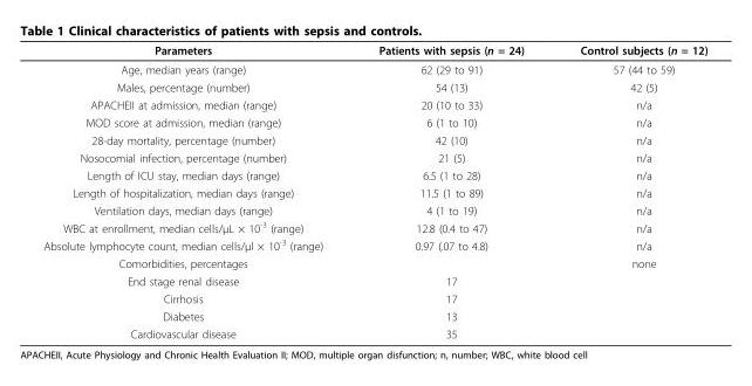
<table><thead><tr><td>Parameters</td><td>Patients with sepsis (n = 24)</td><td>Control subjects (n = 12)</td></tr></thead><tbody><tr><td>Age, median years (range)</td><td>62 (29 to 91)</td><td>57 (44 to 59)</td></tr><tr><td>Males, percentage (number)</td><td>54 (13)</td><td>42 (5)</td></tr><tr><td>APACHEII at admission, median (range)</td><td>20 (10 to 33)</td><td>n/a</td></tr><tr><td>MOD score at admission, median (range)</td><td>6 (1 to 10)</td><td>n/a</td></tr><tr><td>28-day mortality, percentage (number)</td><td>42 (10)</td><td>n/a</td></tr><tr><td>Nosocomial infection, percentage (number)</td><td>21 (5)</td><td>n/a</td></tr><tr><td>Length of ICU stay, median days (range)</td><td>6.5 (1 to 28)</td><td>n/a</td></tr><tr><td>Length of hospitalization, median days (range)</td><td>11.5 (1 to 89)</td><td>n/a</td></tr><tr><td>Ventilation days, median days (range)</td><td>4 (1 to 19)</td><td>n/a</td></tr><tr><td>WBC at enrollment, median cells/μL × 10<sup>-3</sup> (range)</td><td>12.8 (0.4 to 47)</td><td>n/a</td></tr><tr><td>Absolute lymphocyte count, median cells/μl × 10<sup>-3</sup> (range)</td><td>0.97 (.07 to 4.8)</td><td>n/a</td></tr><tr><td>Comorbidities, percentages</td><td></td><td>none</td></tr><tr><td>End stage renal disease</td><td>17</td><td></td></tr><tr><td>Cirrhosis</td><td>17</td><td></td></tr><tr><td>Diabetes</td><td>13</td><td></td></tr><tr><td>Cardiovascular disease</td><td>35</td><td></td></tr></tbody></table>